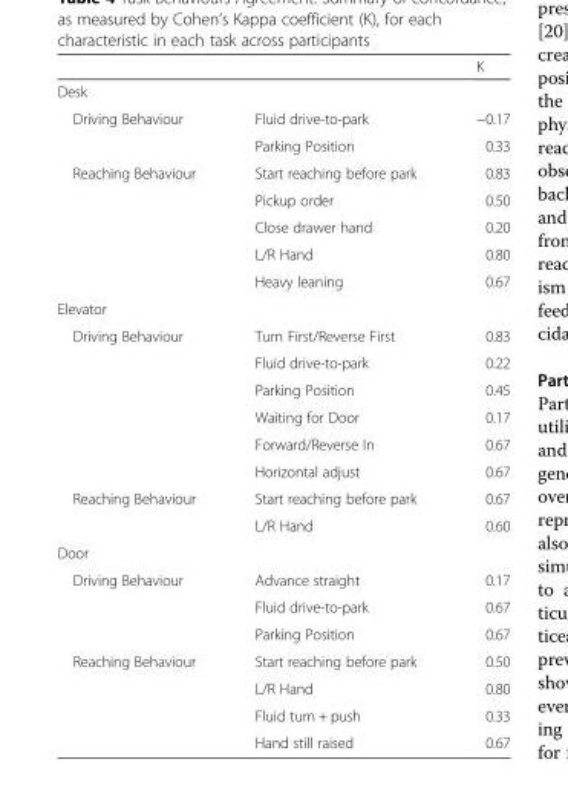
<table><thead><tr><td></td><td></td><td>K</td></tr></thead><tbody><tr><td colspan="3">Desk</td></tr><tr><td rowspan="2">Driving Behaviour</td><td>Fluid drive-to-park</td><td>−0.17</td></tr><tr><td>Parking Position</td><td>0.33</td></tr><tr><td rowspan="5">Reaching Behaviour</td><td>Start reaching before park</td><td>0.83</td></tr><tr><td>Pickup order</td><td>0.50</td></tr><tr><td>Close drawer hand</td><td>0.20</td></tr><tr><td>L/R Hand</td><td>0.80</td></tr><tr><td>Heavy leaning</td><td>0.67</td></tr><tr><td colspan="3">Elevator</td></tr><tr><td rowspan="6">Driving Behaviour</td><td>Turn First/Reverse First</td><td>0.83</td></tr><tr><td>Fluid drive-to-park</td><td>0.22</td></tr><tr><td>Parking Position</td><td>0.45</td></tr><tr><td>Waiting for Door</td><td>0.17</td></tr><tr><td>Forward/Reverse In</td><td>0.67</td></tr><tr><td>Horizontal adjust</td><td>0.67</td></tr><tr><td rowspan="2">Reaching Behaviour</td><td>Start reaching before park</td><td>0.67</td></tr><tr><td>L/R Hand</td><td>0.60</td></tr><tr><td colspan="3">Door</td></tr><tr><td rowspan="3">Driving Behaviour</td><td>Advance straight</td><td>0.17</td></tr><tr><td>Fluid drive-to-park</td><td>0.67</td></tr><tr><td>Parking Position</td><td>0.67</td></tr><tr><td rowspan="4">Reaching Behaviour</td><td>Start reaching before park</td><td>0.50</td></tr><tr><td>L/R Hand</td><td>0.80</td></tr><tr><td>Fluid turn + push</td><td>0.33</td></tr><tr><td>Hand still raised</td><td>0.67</td></tr></tbody></table>